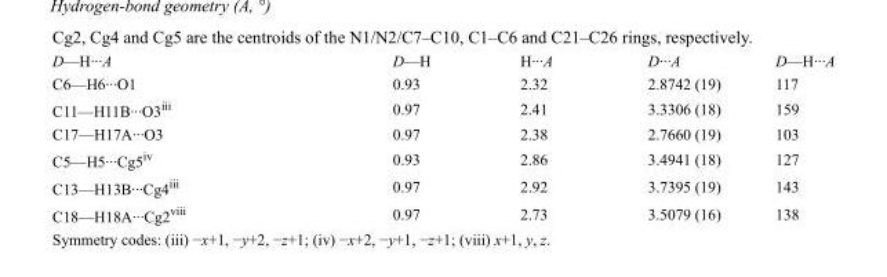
<table><tbody><tr><td>D—H···A</td><td>D—H</td><td>H···A</td><td>D···A</td><td>D—H···A</td></tr><tr><td>C6—H6···O1</td><td>0.93</td><td>2.32</td><td>2.8742 (19)</td><td>117</td></tr><tr><td>C11—H11B···O3<sup>iii</sup></td><td>0.97</td><td>2.41</td><td>3.3306 (18)</td><td>159</td></tr><tr><td>C17—H17A···O3</td><td>0.97</td><td>2.38</td><td>2.7660 (19)</td><td>103</td></tr><tr><td>C5—H5···Cg5<sup>iv</sup></td><td>0.93</td><td>2.86</td><td>3.4941 (18)</td><td>127</td></tr><tr><td>C13—H13B···Cg4<sup>iii</sup></td><td>0.97</td><td>2.92</td><td>3.7395 (19)</td><td>143</td></tr><tr><td>C18—H18A···Cg2<sup>viii</sup></td><td>0.97</td><td>2.73</td><td>3.5079 (16)</td><td>138</td></tr></tbody></table>